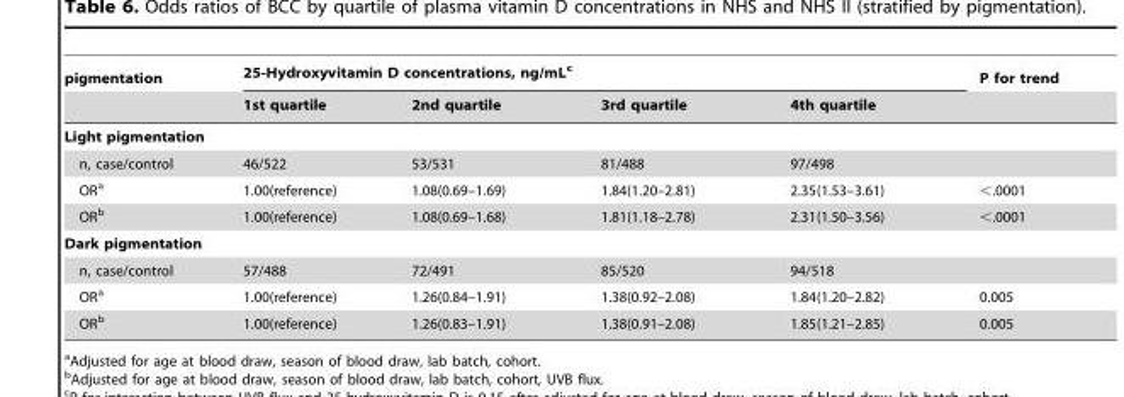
<table><thead><tr><td rowspan="2">pigmentation</td><td colspan="4">25-Hydroxyvitamin D concentrations, ng/mL<sup>c</sup></td><td rowspan="2">P for trend</td></tr><tr><td>1st quartile</td><td>2nd quartile</td><td>3rd quartile</td><td>4th quartile</td></tr></thead><tbody><tr><td colspan="6">Light pigmentation</td></tr><tr><td>n, case/control</td><td>46/522</td><td>53/531</td><td>81/488</td><td>97/498</td><td></td></tr><tr><td>OR<sup>a</sup></td><td>1.00(reference)</td><td>1.08(0.69–1.69)</td><td>1.84(1.20–2.81)</td><td>2.35(1.53–3.61)</td><td>&lt;.0001</td></tr><tr><td>OR<sup>b</sup></td><td>1.00(reference)</td><td>1.08(0.69–1.68)</td><td>1.81(1.18–2.78)</td><td>2.31(1.50–3.56)</td><td>&lt;.0001</td></tr><tr><td colspan="6">Dark pigmentation</td></tr><tr><td>n, case/control</td><td>57/488</td><td>72/491</td><td>85/520</td><td>94/518</td><td></td></tr><tr><td>OR<sup>a</sup></td><td>1.00(reference)</td><td>1.26(0.84–1.91)</td><td>1.38(0.92–2.08)</td><td>1.84(1.20–2.82)</td><td>0.005</td></tr><tr><td>OR<sup>b</sup></td><td>1.00(reference)</td><td>1.26(0.83–1.91)</td><td>1.38(0.91–2.08)</td><td>1.85(1.21–2.85)</td><td>0.005</td></tr></tbody></table>